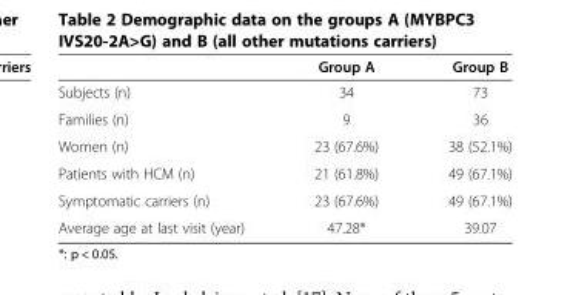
<table><thead><tr><td></td><td>Group A</td><td>Group B</td></tr></thead><tbody><tr><td>Subjects (n)</td><td>34</td><td>73</td></tr><tr><td>Families (n)</td><td>9</td><td>36</td></tr><tr><td>Women (n)</td><td>23 (67.6%)</td><td>38 (52.1%)</td></tr><tr><td>Patients with HCM (n)</td><td>21 (61.8%)</td><td>49 (67.1%)</td></tr><tr><td>Symptomatic carriers (n)</td><td>23 (67.6%)</td><td>49 (67.1%)</td></tr><tr><td>Average age at last visit (year)</td><td>47.28*</td><td>39.07</td></tr></tbody></table>